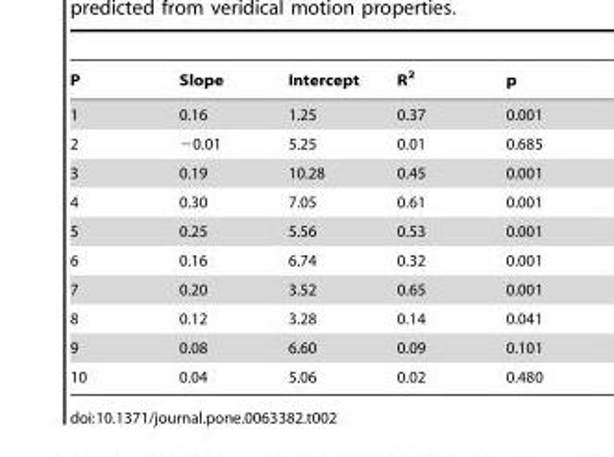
<table><thead><tr><td>P</td><td>Slope</td><td>Intercept</td><td>R<sup>2</sup></td><td>p</td></tr></thead><tbody><tr><td>1</td><td>0.16</td><td>1.25</td><td>0.37</td><td>0.001</td></tr><tr><td>2</td><td>−0.01</td><td>5.25</td><td>0.01</td><td>0.685</td></tr><tr><td>3</td><td>0.19</td><td>10.28</td><td>0.45</td><td>0.001</td></tr><tr><td>4</td><td>0.30</td><td>7.05</td><td>0.61</td><td>0.001</td></tr><tr><td>5</td><td>0.25</td><td>5.56</td><td>0.53</td><td>0.001</td></tr><tr><td>6</td><td>0.16</td><td>6.74</td><td>0.32</td><td>0.001</td></tr><tr><td>7</td><td>0.20</td><td>3.52</td><td>0.65</td><td>0.001</td></tr><tr><td>8</td><td>0.12</td><td>3.28</td><td>0.14</td><td>0.041</td></tr><tr><td>9</td><td>0.08</td><td>6.60</td><td>0.09</td><td>0.101</td></tr><tr><td>10</td><td>0.04</td><td>5.06</td><td>0.02</td><td>0.480</td></tr></tbody></table>